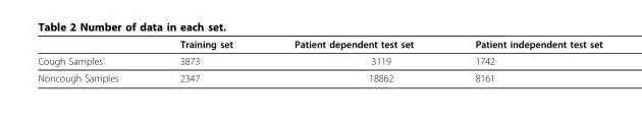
<table><thead><tr><td></td><td>Training set</td><td>Patient dependent test set</td><td>Patient independent test set</td></tr></thead><tbody><tr><td>Cough Samples</td><td>3873</td><td>3119</td><td>1742</td></tr><tr><td>Noncough Samples</td><td>2347</td><td>18862</td><td>8161</td></tr></tbody></table>